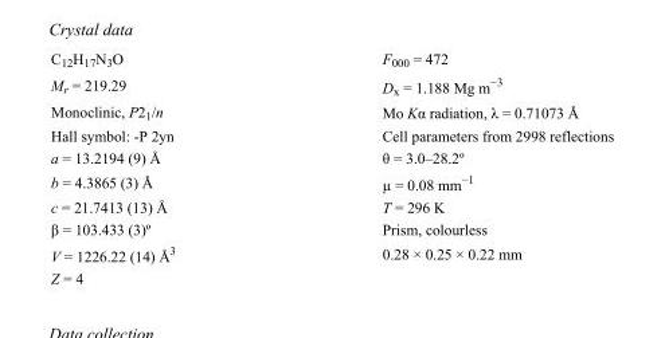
<table><tbody><tr><td>C<sub>12</sub>H<sub>17</sub>N<sub>3</sub>O</td><td>F000 = 472</td></tr><tr><td>M<sub>r</sub> = 219.29</td><td>D<sub>x</sub> = 1.188 Mg m<sup>−3</sup></td></tr><tr><td>Monoclinic, P2<sub>1</sub>/n</td><td>Mo Kα radiation, λ = 0.71073 Å</td></tr><tr><td>Hall symbol: -P 2yn</td><td>Cell parameters from 2998 reflections</td></tr><tr><td>a = 13.2194 (9) Å</td><td>θ = 3.0–28.2º</td></tr><tr><td>b = 4.3865 (3) Å</td><td>µ = 0.08 mm<sup>−1</sup></td></tr><tr><td>c = 21.7413 (13) Å</td><td>T = 296 K</td></tr><tr><td>β = 103.433 (3)º</td><td>Prism, colourless</td></tr><tr><td>V = 1226.22 (14) Å<sup>3</sup></td><td>0.28 × 0.25 × 0.22 mm</td></tr><tr><td>Z = 4</td><td></td></tr></tbody></table>